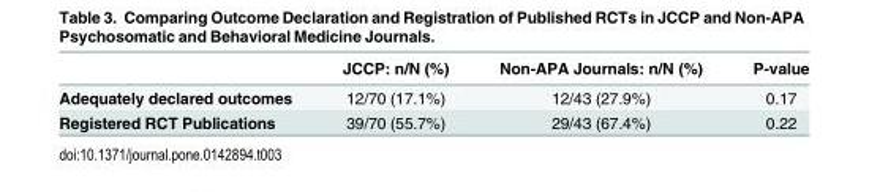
<table><thead><tr><td></td><td>JCCP: n/N (%)</td><td>Non-APA Journals: n/N (%)</td><td>P-value</td></tr></thead><tbody><tr><td>Adequately declared outcomes</td><td>12/70 (17.1%)</td><td>12/43 (27.9%)</td><td>0.17</td></tr><tr><td>Registered RCT Publications</td><td>39/70 (55.7%)</td><td>29/43 (67.4%)</td><td>0.22</td></tr></tbody></table>